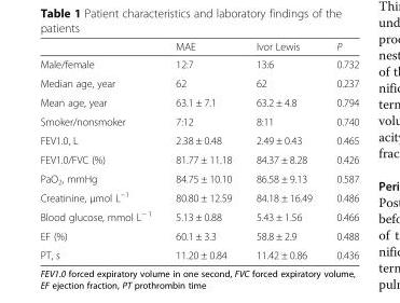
<table><thead><tr><td></td><td>MAE</td><td>Ivor Lewis</td><td>P</td></tr></thead><tbody><tr><td>Male/female</td><td>12:7</td><td>13:6</td><td>0.732</td></tr><tr><td>Median age, year</td><td>62</td><td>62</td><td>0.237</td></tr><tr><td>Mean age, year</td><td>63.1 ± 7.1</td><td>63.2 ± 4.8</td><td>0.794</td></tr><tr><td>Smoker/nonsmoker</td><td>7:12</td><td>8:11</td><td>0.740</td></tr><tr><td>FEV1.0, L</td><td>2.38 ± 0.48</td><td>2.49 ± 0.43</td><td>0.465</td></tr><tr><td>FEV1.0/FVC (%)</td><td>81.77 ± 11.18</td><td>84.37 ± 8.28</td><td>0.426</td></tr><tr><td>PaO<sub>2</sub>, mmHg</td><td>84.75 ± 10.10</td><td>86.58 ± 9.13</td><td>0.587</td></tr><tr><td>Creatinine, μmol L<sup>−1</sup></td><td>80.80 ± 12.59</td><td>84.18 ± 16.49</td><td>0.486</td></tr><tr><td>Blood glucose, mmol L<sup>− 1</sup></td><td>5.13 ± 0.88</td><td>5.43 ± 1.56</td><td>0.466</td></tr><tr><td>EF (%)</td><td>60.1 ± 3.3</td><td>58.8 ± 2.9</td><td>0.488</td></tr><tr><td>PT, s</td><td>11.20 ± 0.84</td><td>11.42 ± 0.86</td><td>0.436</td></tr></tbody></table>